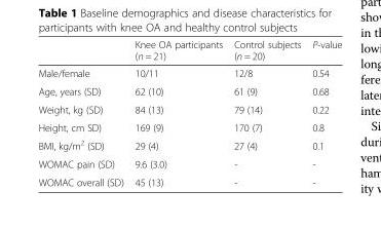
<table><thead><tr><td></td><td>Knee OA participants (n = 21)</td><td>Control subjects (n = 20)</td><td>P-value</td></tr></thead><tbody><tr><td>Male/female</td><td>10/11</td><td>12/8</td><td>0.54</td></tr><tr><td>Age, years (SD)</td><td>62 (10)</td><td>61 (9)</td><td>0.68</td></tr><tr><td>Weight, kg (SD)</td><td>84 (13)</td><td>79 (14)</td><td>0.22</td></tr><tr><td>Height, cm SD)</td><td>169 (9)</td><td>170 (7)</td><td>0.8</td></tr><tr><td>BMI, kg/m<sup>2</sup> (SD)</td><td>29 (4)</td><td>27 (4)</td><td>0.1</td></tr><tr><td>WOMAC pain (SD)</td><td>9.6 (3.0)</td><td>-</td><td>-</td></tr><tr><td>WOMAC overall (SD)</td><td>45 (13)</td><td>-</td><td>-</td></tr></tbody></table>